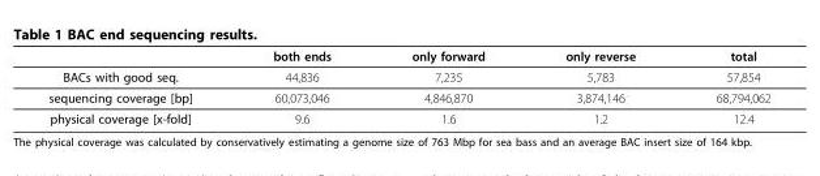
<table><thead><tr><td></td><td>both ends</td><td>only forward</td><td>only reverse</td><td>total</td></tr></thead><tbody><tr><td>BACs with good seq.</td><td>44,836</td><td>7,235</td><td>5,783</td><td>57,854</td></tr><tr><td>sequencing coverage [bp]</td><td>60,073,046</td><td>4,846,870</td><td>3,874,146</td><td>68,794,062</td></tr><tr><td>physical coverage [x-fold]</td><td>9.6</td><td>1.6</td><td>1.2</td><td>12.4</td></tr></tbody></table>